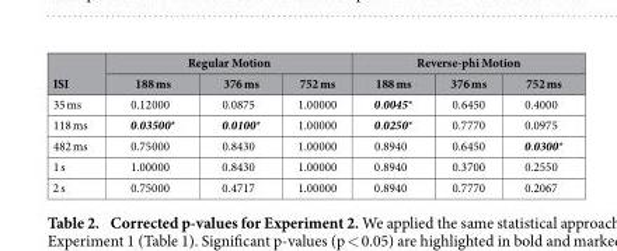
<table><thead><tr><td rowspan="2">ISI</td><td colspan="3">Regular Motion</td><td colspan="3">Reverse-phi Motion</td></tr><tr><td>188 ms</td><td>376 ms</td><td>752 ms</td><td>188 ms</td><td>376 ms</td><td>752 ms</td></tr></thead><tbody><tr><td>35 ms</td><td>0.12000</td><td>0.0875</td><td>1.00000</td><td>0.0045*</td><td>0.6450</td><td>0.4000</td></tr><tr><td>118 ms</td><td>0.03500*</td><td>0.0100*</td><td>1.00000</td><td>0.0250*</td><td>0.7770</td><td>0.0975</td></tr><tr><td>482 ms</td><td>0.75000</td><td>0.8430</td><td>1.00000</td><td>0.8940</td><td>0.6450</td><td>0.0300*</td></tr><tr><td>1 s</td><td>1.00000</td><td>0.8430</td><td>1.00000</td><td>0.8940</td><td>0.3700</td><td>0.2550</td></tr><tr><td>2 s</td><td>0.75000</td><td>0.4717</td><td>1.00000</td><td>0.8940</td><td>0.7770</td><td>0.2067</td></tr></tbody></table>